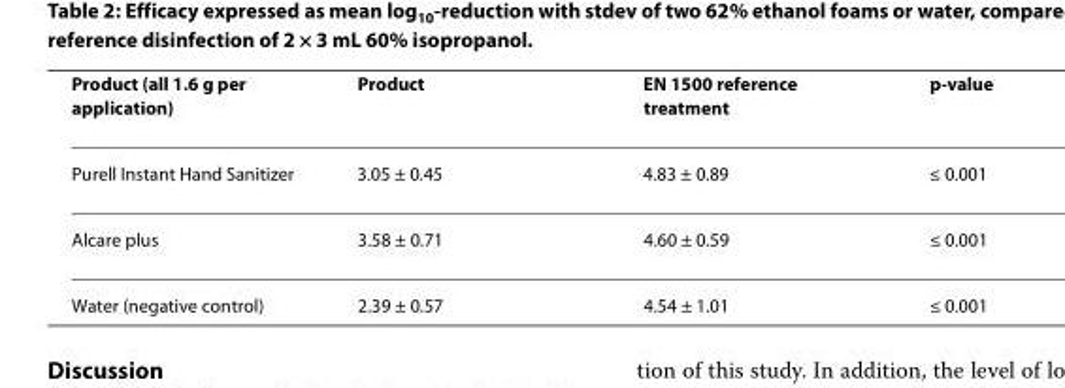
<table><thead><tr><td>Product (all 1.6 g per application)</td><td>Product</td><td>EN 1500 reference treatment</td><td>p-value</td></tr></thead><tbody><tr><td>Purell Instant Hand Sanitizer</td><td>3.05 ± 0.45</td><td>4.83 ± 0.89</td><td>≤ 0.001</td></tr><tr><td>Alcare plus</td><td>3.58 ± 0.71</td><td>4.60 ± 0.59</td><td>≤ 0.001</td></tr><tr><td>Water (negative control)</td><td>2.39 ± 0.57</td><td>4.54 ± 1.01</td><td>≤ 0.001</td></tr></tbody></table>